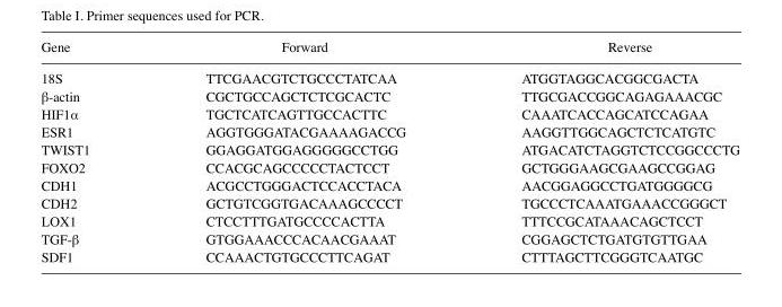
<table><thead><tr><td>Gene</td><td>Forward</td><td>Reverse</td></tr></thead><tbody><tr><td>18S</td><td>TTCGAACGTCTGCCCTATCAA</td><td>ATGGTAGGCACGGCGACTA</td></tr><tr><td>β-actin</td><td>CGCTGCCAGCTCTCGCACTC</td><td>TTGCGACCGGCAGAGAAACGC</td></tr><tr><td>HIF1α</td><td>TGCTCATCAGTTGCCACTTC</td><td>CAAATCACCAGCATCCAGAA</td></tr><tr><td>ESR1</td><td>AGGTGGGATACGAAAAGACCG</td><td>AAGGTTGGCAGCTCTCATGTC</td></tr><tr><td>TWIST1</td><td>GGAGGATGGAGGGGGCCTGG</td><td>ATGACATCTAGGTCTCCGGCCCTG</td></tr><tr><td>FOXO2</td><td>CCACGCAGCCCCCTACTCCT</td><td>GCTGGGAAGCGAAGCCGGAG</td></tr><tr><td>CDH1</td><td>ACGCCTGGGACTCCACCTACA</td><td>AACGGAGGCCTGATGGGGCG</td></tr><tr><td>CDH2</td><td>GCTGTCGGTGACAAAGCCCCT</td><td>TGCCCTCAAATGAAACCGGGCT</td></tr><tr><td>LOX1</td><td>CTCCTTTGATGCCCCACTTA</td><td>TTTCCGCATAAACAGCTCCT</td></tr><tr><td>TGF-β</td><td>GTGGAAACCCACAACGAAAT</td><td>CGGAGCTCTGATGTGTTGAA</td></tr><tr><td>SDF1</td><td>CCAAACTGTGCCCTTCAGAT</td><td>CTTTAGCTTCGGGTCAATGC</td></tr></tbody></table>